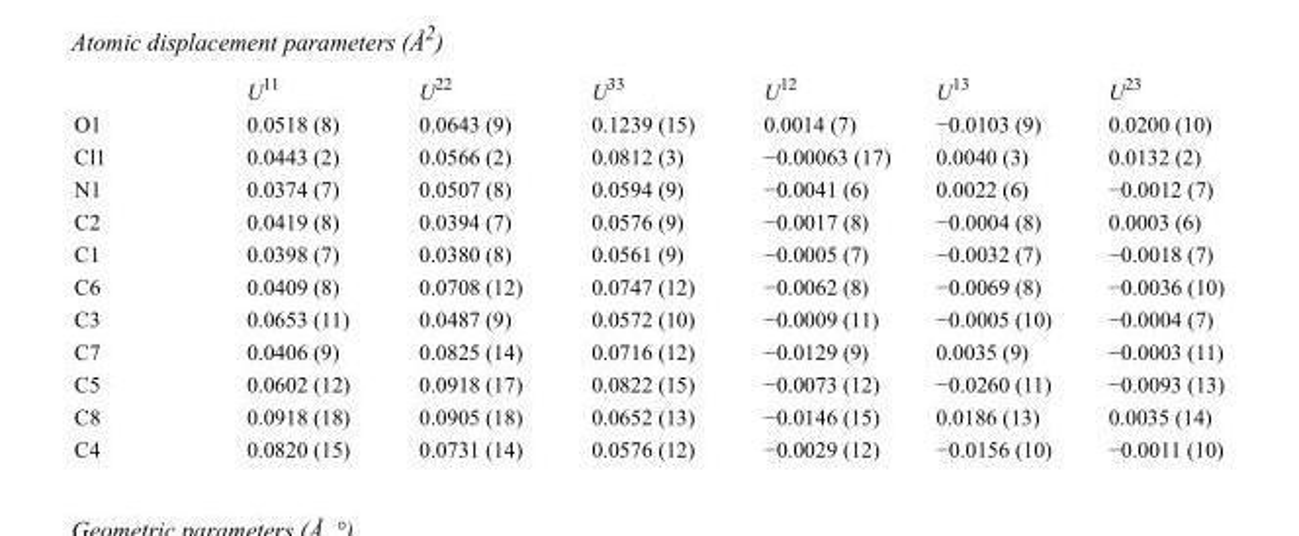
<table><thead><tr><td></td><td>U<sup>11</sup></td><td>U<sup>22</sup></td><td>U<sup>33</sup></td><td>U<sup>12</sup></td><td>U<sup>13</sup></td><td>U<sup>23</sup></td></tr></thead><tbody><tr><td>O1</td><td>0.0518 (8)</td><td>0.0643 (9)</td><td>0.1239 (15)</td><td>0.0014 (7)</td><td>−0.0103 (9)</td><td>0.0200 (10)</td></tr><tr><td>Cl1</td><td>0.0443 (2)</td><td>0.0566 (2)</td><td>0.0812 (3)</td><td>−0.00063 (17)</td><td>0.0040 (3)</td><td>0.0132 (2)</td></tr><tr><td>N1</td><td>0.0374 (7)</td><td>0.0507 (8)</td><td>0.0594 (9)</td><td>−0.0041 (6)</td><td>0.0022 (6)</td><td>−0.0012 (7)</td></tr><tr><td>C2</td><td>0.0419 (8)</td><td>0.0394 (7)</td><td>0.0576 (9)</td><td>−0.0017 (8)</td><td>−0.0004 (8)</td><td>0.0003 (6)</td></tr><tr><td>C1</td><td>0.0398 (7)</td><td>0.0380 (8)</td><td>0.0561 (9)</td><td>−0.0005 (7)</td><td>−0.0032 (7)</td><td>−0.0018 (7)</td></tr><tr><td>C6</td><td>0.0409 (8)</td><td>0.0708 (12)</td><td>0.0747 (12)</td><td>−0.0062 (8)</td><td>−0.0069 (8)</td><td>−0.0036 (10)</td></tr><tr><td>C3</td><td>0.0653 (11)</td><td>0.0487 (9)</td><td>0.0572 (10)</td><td>−0.0009 (11)</td><td>−0.0005 (10)</td><td>−0.0004 (7)</td></tr><tr><td>C7</td><td>0.0406 (9)</td><td>0.0825 (14)</td><td>0.0716 (12)</td><td>−0.0129 (9)</td><td>0.0035 (9)</td><td>−0.0003 (11)</td></tr><tr><td>C5</td><td>0.0602 (12)</td><td>0.0918 (17)</td><td>0.0822 (15)</td><td>−0.0073 (12)</td><td>−0.0260 (11)</td><td>−0.0093 (13)</td></tr><tr><td>C8</td><td>0.0918 (18)</td><td>0.0905 (18)</td><td>0.0652 (13)</td><td>−0.0146 (15)</td><td>0.0186 (13)</td><td>0.0035 (14)</td></tr><tr><td>C4</td><td>0.0820 (15)</td><td>0.0731 (14)</td><td>0.0576 (12)</td><td>−0.0029 (12)</td><td>−0.0156 (10)</td><td>−0.0011 (10)</td></tr></tbody></table>